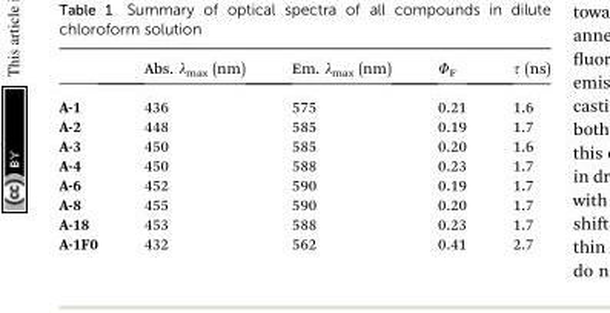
<table><thead><tr><td></td><td>Abs. λ<sub>max</sub> (nm)</td><td>Em. λ<sub>max</sub> (nm)</td><td>Φ<sub>F</sub></td><td>τ (ns)</td></tr></thead><tbody><tr><td>A-1</td><td>436</td><td>575</td><td>0.21</td><td>1.6</td></tr><tr><td>A-2</td><td>448</td><td>585</td><td>0.19</td><td>1.7</td></tr><tr><td>A-3</td><td>450</td><td>585</td><td>0.20</td><td>1.6</td></tr><tr><td>A-4</td><td>450</td><td>588</td><td>0.23</td><td>1.7</td></tr><tr><td>A-6</td><td>452</td><td>590</td><td>0.19</td><td>1.7</td></tr><tr><td>A-8</td><td>455</td><td>590</td><td>0.20</td><td>1.7</td></tr><tr><td>A-18</td><td>453</td><td>588</td><td>0.23</td><td>1.7</td></tr><tr><td>A-1F0</td><td>432</td><td>562</td><td>0.41</td><td>2.7</td></tr></tbody></table>